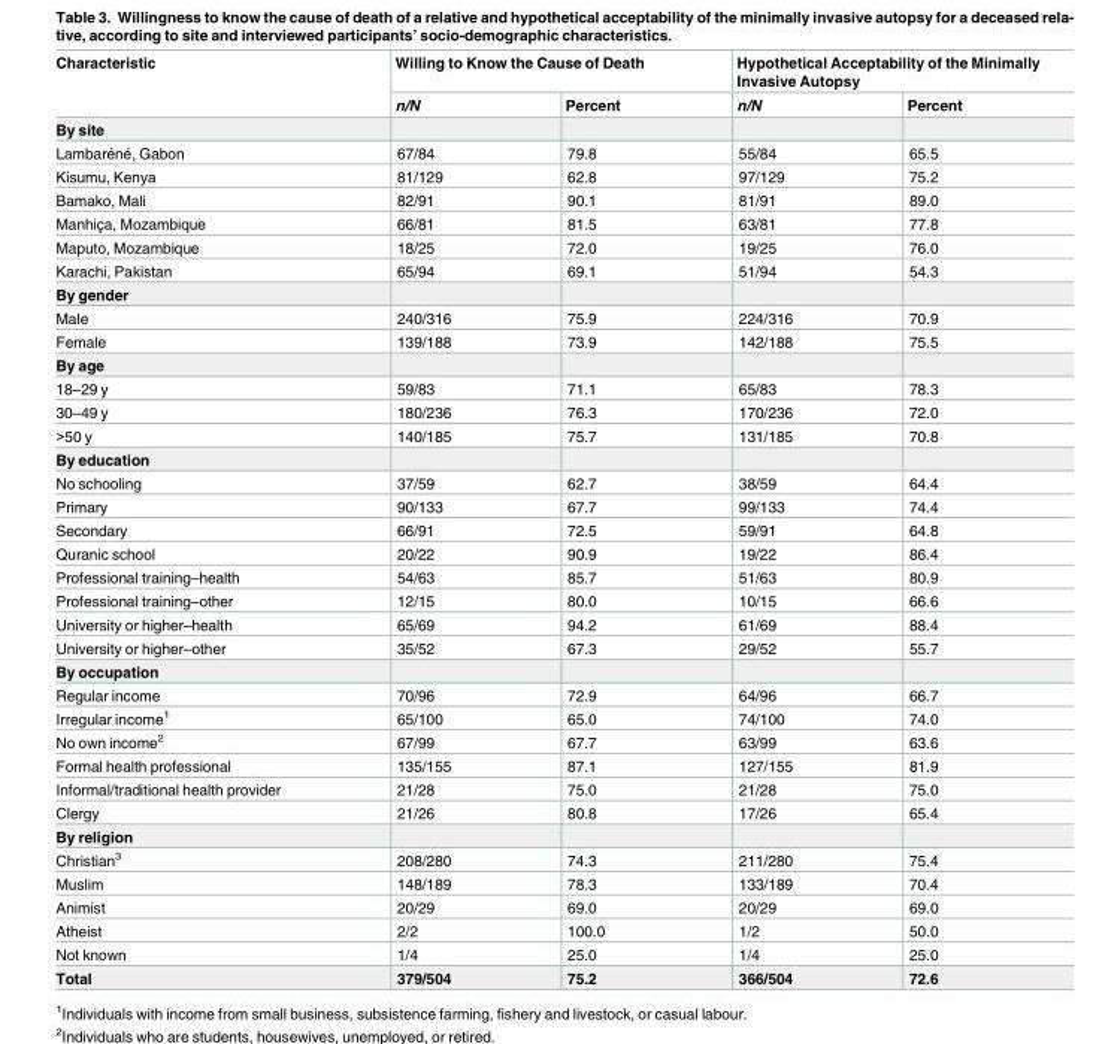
<table><thead><tr><td rowspan="2">Characteristic</td><td colspan="2">Willing to Know the Cause of Death</td><td colspan="2">Hypothetical Acceptability of the Minimally Invasive Autopsy</td></tr><tr><td>n/N</td><td>Percent</td><td>n/N</td><td>Percent</td></tr></thead><tbody><tr><td colspan="5">By site</td></tr><tr><td>Lambare´ne´, Gabon</td><td>67/84</td><td>79.8</td><td>55/84</td><td>65.5</td></tr><tr><td>Kisumu, Kenya</td><td>81/129</td><td>62.8</td><td>97/129</td><td>75.2</td></tr><tr><td>Bamako, Mali</td><td>82/91</td><td>90.1</td><td>81/91</td><td>89.0</td></tr><tr><td>Manhic¸a, Mozambique</td><td>66/81</td><td>81.5</td><td>63/81</td><td>77.8</td></tr><tr><td>Maputo, Mozambique</td><td>18/25</td><td>72.0</td><td>19/25</td><td>76.0</td></tr><tr><td>Karachi, Pakistan</td><td>65/94</td><td>69.1</td><td>51/94</td><td>54.3</td></tr><tr><td colspan="5">By gender</td></tr><tr><td>Male</td><td>240/316</td><td>75.9</td><td>224/316</td><td>70.9</td></tr><tr><td>Female</td><td>139/188</td><td>73.9</td><td>142/188</td><td>75.5</td></tr><tr><td colspan="5">By age</td></tr><tr><td>18–29 y</td><td>59/83</td><td>71.1</td><td>65/83</td><td>78.3</td></tr><tr><td>30–49 y</td><td>180/236</td><td>76.3</td><td>170/236</td><td>72.0</td></tr><tr><td>&gt;50 y</td><td>140/185</td><td>75.7</td><td>131/185</td><td>70.8</td></tr><tr><td colspan="5">By education</td></tr><tr><td>No schooling</td><td>37/59</td><td>62.7</td><td>38/59</td><td>64.4</td></tr><tr><td>Primary</td><td>90/133</td><td>67.7</td><td>99/133</td><td>74.4</td></tr><tr><td>Secondary</td><td>66/91</td><td>72.5</td><td>59/91</td><td>64.8</td></tr><tr><td>Quranic school</td><td>20/22</td><td>90.9</td><td>19/22</td><td>86.4</td></tr><tr><td>Professional training–health</td><td>54/63</td><td>85.7</td><td>51/63</td><td>80.9</td></tr><tr><td>Professional training–other</td><td>12/15</td><td>80.0</td><td>10/15</td><td>66.6</td></tr><tr><td>University or higher–health</td><td>65/69</td><td>94.2</td><td>61/69</td><td>88.4</td></tr><tr><td>University or higher–other</td><td>35/52</td><td>67.3</td><td>29/52</td><td>55.7</td></tr><tr><td colspan="5">By occupation</td></tr><tr><td>Regular income</td><td>70/96</td><td>72.9</td><td>64/96</td><td>66.7</td></tr><tr><td>Irregular income<sup>1</sup></td><td>65/100</td><td>65.0</td><td>74/100</td><td>74.0</td></tr><tr><td>No own income<sup>2</sup></td><td>67/99</td><td>67.7</td><td>63/99</td><td>63.6</td></tr><tr><td>Formal health professional</td><td>135/155</td><td>87.1</td><td>127/155</td><td>81.9</td></tr><tr><td>Informal/traditional health provider</td><td>21/28</td><td>75.0</td><td>21/28</td><td>75.0</td></tr><tr><td>Clergy</td><td>21/26</td><td>80.8</td><td>17/26</td><td>65.4</td></tr><tr><td colspan="5">By religion</td></tr><tr><td>Christian<sup>3</sup></td><td>208/280</td><td>74.3</td><td>211/280</td><td>75.4</td></tr><tr><td>Muslim</td><td>148/189</td><td>78.3</td><td>133/189</td><td>70.4</td></tr><tr><td>Animist</td><td>20/29</td><td>69.0</td><td>20/29</td><td>69.0</td></tr><tr><td>Atheist</td><td>2/2</td><td>100.0</td><td>1/2</td><td>50.0</td></tr><tr><td>Not known</td><td>1/4</td><td>25.0</td><td>1/4</td><td>25.0</td></tr><tr><td>Total</td><td>379/504</td><td>75.2</td><td>366/504</td><td>72.6</td></tr></tbody></table>